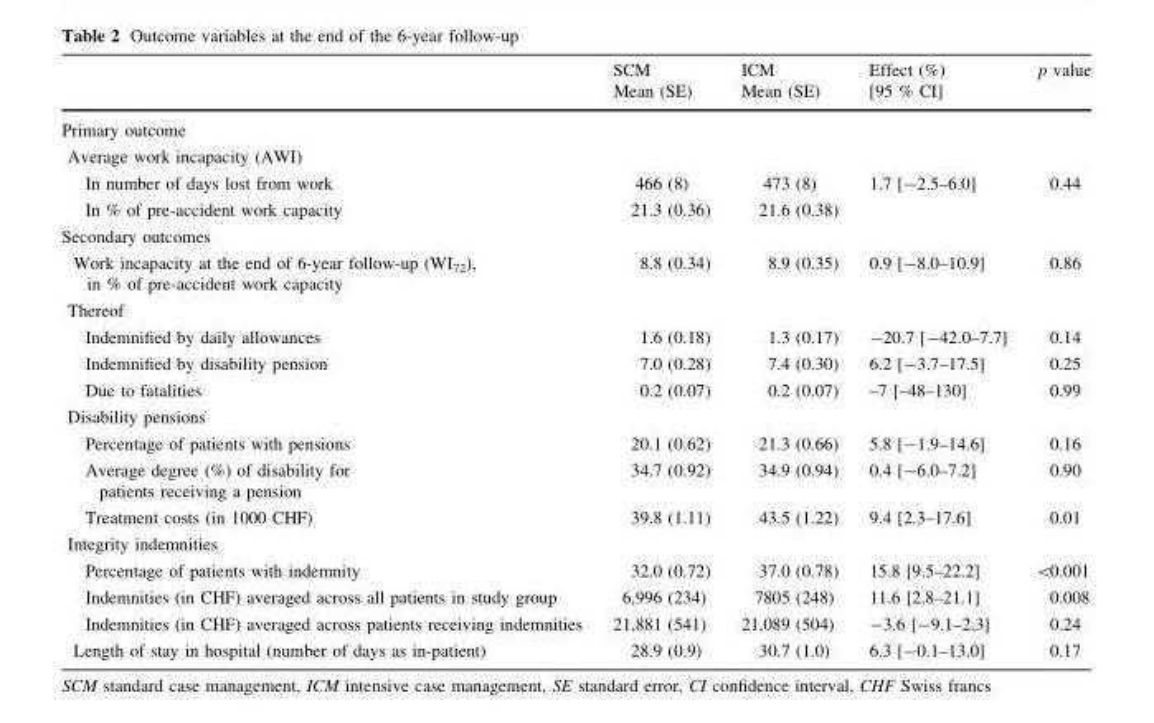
<table><thead><tr><td></td><td>SCM Mean (SE)</td><td>ICM Mean (SE)</td><td>Effect (%) [95 % CI]</td><td>p value</td></tr></thead><tbody><tr><td colspan="5">Primary outcome</td></tr><tr><td colspan="5">Average work incapacity (AWI)</td></tr><tr><td>In number of days lost from work</td><td>466 (8)</td><td>473 (8)</td><td rowspan="2">1.7 [-2.5–6.0]</td><td rowspan="2">0.44</td></tr><tr><td>In % of pre-accident work capacity</td><td>21.3 (0.36)</td><td>21.6 (0.38)</td></tr><tr><td colspan="5">Secondary outcomes</td></tr><tr><td>Work incapacity at the end of 6-year follow-up (WI<sub>72</sub>), in % of pre-accident work capacity</td><td>8.8 (0.34)</td><td>8.9 (0.35)</td><td>0.9 [-8.0–10.9]</td><td>0.86</td></tr><tr><td colspan="5">Thereof</td></tr><tr><td>Indemnified by daily allowances</td><td>1.6 (0.18)</td><td>1.3 (0.17)</td><td>-20.7 [-42.0–7.7]</td><td>0.14</td></tr><tr><td>Indemnified by disability pension</td><td>7.0 (0.28)</td><td>7.4 (0.30)</td><td>6.2 [-3.7–17.5]</td><td>0.25</td></tr><tr><td>Due to fatalities</td><td>0.2 (0.07)</td><td>0.2 (0.07)</td><td>–7 [–48–130]</td><td>0.99</td></tr><tr><td colspan="5">Disability pensions</td></tr><tr><td>Percentage of patients with pensions</td><td>20.1 (0.62)</td><td>21.3 (0.66)</td><td>5.8 [-1.9–14.6]</td><td>0.16</td></tr><tr><td>Average degree (%) of disability for patients receiving a pension</td><td>34.7 (0.92)</td><td>34.9 (0.94)</td><td>0.4 [-6.0–7.2]</td><td>0.90</td></tr><tr><td>Treatment costs (in 1000 CHF)</td><td>39.8 (1.11)</td><td>43.5 (1.22)</td><td>9.4 [2.3–17.6]</td><td>0.01</td></tr><tr><td colspan="5">Integrity indemnities</td></tr><tr><td>Percentage of patients with indemnity</td><td>32.0 (0.72)</td><td>37.0 (0.78)</td><td>15.8 [9.5–22.2]</td><td>&lt;0.001</td></tr><tr><td>Indemnities (in CHF) averaged across all patients in study group</td><td>6,996 (234)</td><td>7805 (248)</td><td>11.6 [2.8–21.1]</td><td>0.008</td></tr><tr><td>Indemnities (in CHF) averaged across patients receiving indemnities</td><td>21,881 (541)</td><td>21,089 (504)</td><td>-3.6 [-9.1–2.3]</td><td>0.24</td></tr><tr><td>Length of stay in hospital (number of days as in-patient)</td><td>28.9 (0.9)</td><td>30.7 (1.0)</td><td>6.3 [-0.1–13.0]</td><td>0.17</td></tr></tbody></table>